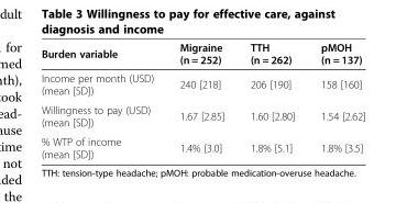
<table><thead><tr><td>Burden variable</td><td>Migraine (n = 252)</td><td>TTH (n = 262)</td><td>pMOH (n = 137)</td></tr></thead><tbody><tr><td>Income per month (USD) (mean [SD])</td><td>240 [218]</td><td>206 [190]</td><td>158 [160]</td></tr><tr><td>Willingness to pay (USD) (mean [SD])</td><td>1.67 [2.85]</td><td>1.60 [2.80]</td><td>1.54 [2.62]</td></tr><tr><td>% WTP of income (mean [SD])</td><td>1.4% [3.0]</td><td>1.8% [5.1]</td><td>1.8% [3.5]</td></tr></tbody></table>